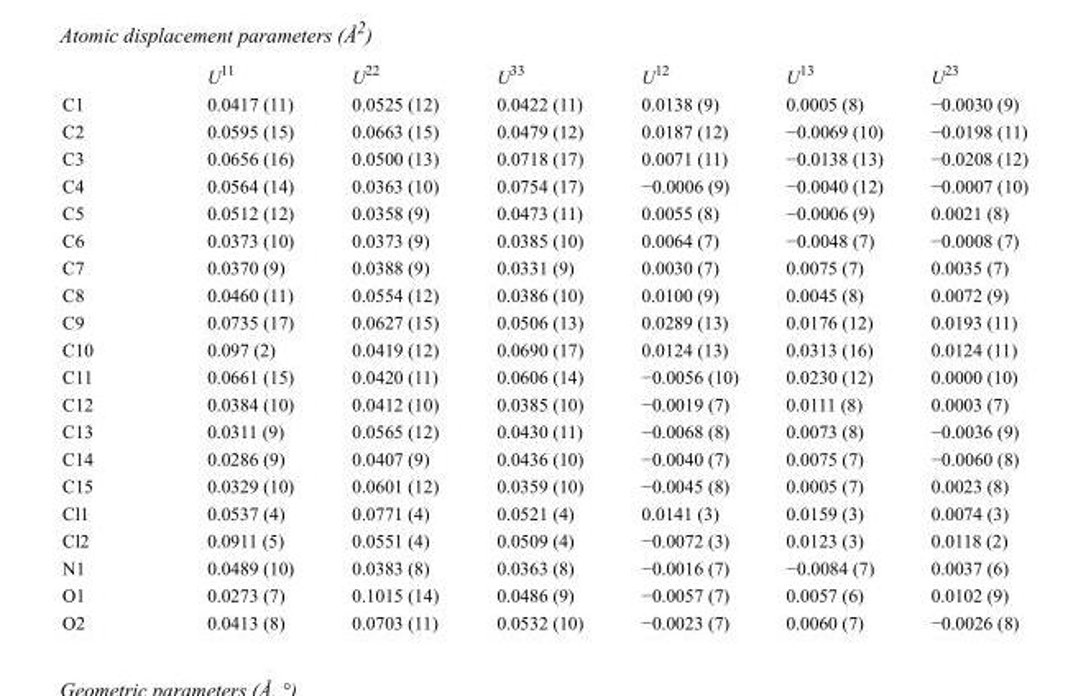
<table><thead><tr><td></td><td>U<sup>11</sup></td><td>U<sup>22</sup></td><td>U<sup>33</sup></td><td>U<sup>12</sup></td><td>U<sup>13</sup></td><td>U<sup>23</sup></td></tr></thead><tbody><tr><td>C1</td><td>0.0417 (11)</td><td>0.0525 (12)</td><td>0.0422 (11)</td><td>0.0138 (9)</td><td>0.0005 (8)</td><td>−0.0030 (9)</td></tr><tr><td>C2</td><td>0.0595 (15)</td><td>0.0663 (15)</td><td>0.0479 (12)</td><td>0.0187 (12)</td><td>−0.0069 (10)</td><td>−0.0198 (11)</td></tr><tr><td>C3</td><td>0.0656 (16)</td><td>0.0500 (13)</td><td>0.0718 (17)</td><td>0.0071 (11)</td><td>−0.0138 (13)</td><td>−0.0208 (12)</td></tr><tr><td>C4</td><td>0.0564 (14)</td><td>0.0363 (10)</td><td>0.0754 (17)</td><td>−0.0006 (9)</td><td>−0.0040 (12)</td><td>−0.0007 (10)</td></tr><tr><td>C5</td><td>0.0512 (12)</td><td>0.0358 (9)</td><td>0.0473 (11)</td><td>0.0055 (8)</td><td>−0.0006 (9)</td><td>0.0021 (8)</td></tr><tr><td>C6</td><td>0.0373 (10)</td><td>0.0373 (9)</td><td>0.0385 (10)</td><td>0.0064 (7)</td><td>−0.0048 (7)</td><td>−0.0008 (7)</td></tr><tr><td>C7</td><td>0.0370 (9)</td><td>0.0388 (9)</td><td>0.0331 (9)</td><td>0.0030 (7)</td><td>0.0075 (7)</td><td>0.0035 (7)</td></tr><tr><td>C8</td><td>0.0460 (11)</td><td>0.0554 (12)</td><td>0.0386 (10)</td><td>0.0100 (9)</td><td>0.0045 (8)</td><td>0.0072 (9)</td></tr><tr><td>C9</td><td>0.0735 (17)</td><td>0.0627 (15)</td><td>0.0506 (13)</td><td>0.0289 (13)</td><td>0.0176 (12)</td><td>0.0193 (11)</td></tr><tr><td>C10</td><td>0.097 (2)</td><td>0.0419 (12)</td><td>0.0690 (17)</td><td>0.0124 (13)</td><td>0.0313 (16)</td><td>0.0124 (11)</td></tr><tr><td>C11</td><td>0.0661 (15)</td><td>0.0420 (11)</td><td>0.0606 (14)</td><td>−0.0056 (10)</td><td>0.0230 (12)</td><td>0.0000 (10)</td></tr><tr><td>C12</td><td>0.0384 (10)</td><td>0.0412 (10)</td><td>0.0385 (10)</td><td>−0.0019 (7)</td><td>0.0111 (8)</td><td>0.0003 (7)</td></tr><tr><td>C13</td><td>0.0311 (9)</td><td>0.0565 (12)</td><td>0.0430 (11)</td><td>−0.0068 (8)</td><td>0.0073 (8)</td><td>−0.0036 (9)</td></tr><tr><td>C14</td><td>0.0286 (9)</td><td>0.0407 (9)</td><td>0.0436 (10)</td><td>−0.0040 (7)</td><td>0.0075 (7)</td><td>−0.0060 (8)</td></tr><tr><td>C15</td><td>0.0329 (10)</td><td>0.0601 (12)</td><td>0.0359 (10)</td><td>−0.0045 (8)</td><td>0.0005 (7)</td><td>0.0023 (8)</td></tr><tr><td>Cl1</td><td>0.0537 (4)</td><td>0.0771 (4)</td><td>0.0521 (4)</td><td>0.0141 (3)</td><td>0.0159 (3)</td><td>0.0074 (3)</td></tr><tr><td>Cl2</td><td>0.0911 (5)</td><td>0.0551 (4)</td><td>0.0509 (4)</td><td>−0.0072 (3)</td><td>0.0123 (3)</td><td>0.0118 (2)</td></tr><tr><td>N1</td><td>0.0489 (10)</td><td>0.0383 (8)</td><td>0.0363 (8)</td><td>−0.0016 (7)</td><td>−0.0084 (7)</td><td>0.0037 (6)</td></tr><tr><td>O1</td><td>0.0273 (7)</td><td>0.1015 (14)</td><td>0.0486 (9)</td><td>−0.0057 (7)</td><td>0.0057 (6)</td><td>0.0102 (9)</td></tr><tr><td>O2</td><td>0.0413 (8)</td><td>0.0703 (11)</td><td>0.0532 (10)</td><td>−0.0023 (7)</td><td>0.0060 (7)</td><td>−0.0026 (8)</td></tr></tbody></table>